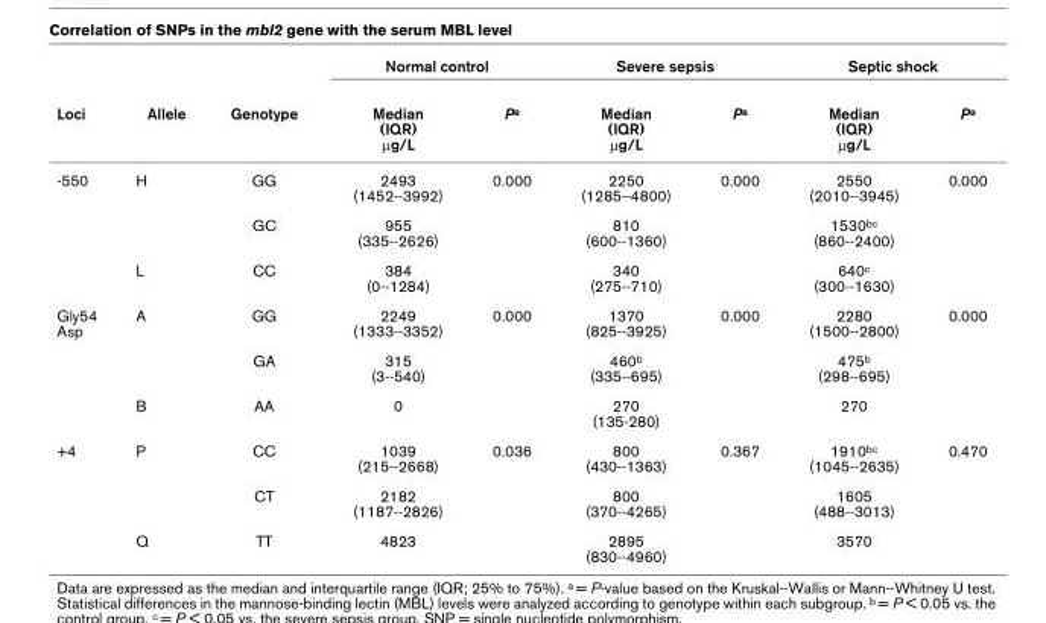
<table><thead><tr><td rowspan="2">Loci</td><td rowspan="2">Allele</td><td rowspan="2">Genotype</td><td colspan="2">Normal control</td><td colspan="2">Severe sepsis</td><td colspan="2">Septic shock</td></tr><tr><td>Median (IQR) μg/L</td><td>P<sup>a</sup></td><td>Median (IQR) μg/L</td><td>P<sup>a</sup></td><td>Median (IQR) μg/L</td><td>P<sup>a</sup></td></tr></thead><tbody><tr><td rowspan="3">-550</td><td>H</td><td>GG</td><td>2493 (1452--3992)</td><td>0.000</td><td>2250 (1285--4800)</td><td>0.000</td><td>2550 (2010--3945)</td><td>0.000</td></tr><tr><td></td><td>GC</td><td>955 (335--2626)</td><td></td><td>810 (600--1360)</td><td></td><td>1530<sup>bc</sup> (860--2400)</td><td></td></tr><tr><td>L</td><td>CC</td><td>384 (0--1284)</td><td></td><td>340 (275--710)</td><td></td><td>640<sup>c</sup> (300--1630)</td><td></td></tr><tr><td rowspan="3">Gly54 Asp</td><td>A</td><td>GG</td><td>2249 (1333--3352)</td><td>0.000</td><td>1370 (825--3925)</td><td>0.000</td><td>2280 (1500--2800)</td><td>0.000</td></tr><tr><td></td><td>GA</td><td>315 (3--540)</td><td></td><td>460<sup>b</sup> (335--695)</td><td></td><td>475<sup>b</sup> (298--695)</td><td></td></tr><tr><td>B</td><td>AA</td><td>0</td><td></td><td>270 (135-280)</td><td></td><td>270</td><td></td></tr><tr><td rowspan="3">+4</td><td>P</td><td>CC</td><td>1039 (215--2668)</td><td>0.036</td><td>800 (430--1363)</td><td>0.367</td><td>1910<sup>bc</sup> (1045--2635)</td><td>0.470</td></tr><tr><td></td><td>CT</td><td>2182 (1187--2826)</td><td></td><td>800 (370--4265)</td><td></td><td>1605 (488--3013)</td><td></td></tr><tr><td>Q</td><td>TT</td><td>4823</td><td></td><td>2895 (830--4960)</td><td></td><td>3570</td><td></td></tr></tbody></table>